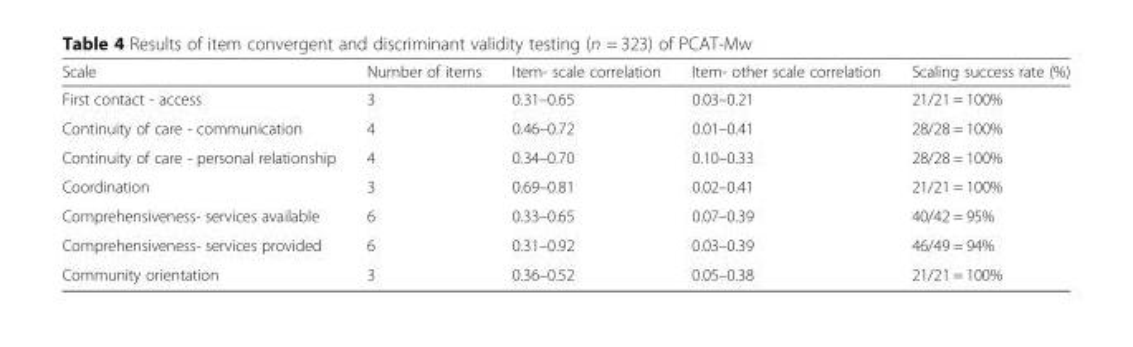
<table><thead><tr><td>Scale</td><td>Number of items</td><td>Item- scale correlation</td><td>Item- other scale correlation</td><td>Scaling success rate (%)</td></tr></thead><tbody><tr><td>First contact - access</td><td>3</td><td>0.31–0.65</td><td>0.03–0.21</td><td>21/21 = 100%</td></tr><tr><td>Continuity of care - communication</td><td>4</td><td>0.46–0.72</td><td>0.01–0.41</td><td>28/28 = 100%</td></tr><tr><td>Continuity of care - personal relationship</td><td>4</td><td>0.34–0.70</td><td>0.10–0.33</td><td>28/28 = 100%</td></tr><tr><td>Coordination</td><td>3</td><td>0.69–0.81</td><td>0.02–0.41</td><td>21/21 = 100%</td></tr><tr><td>Comprehensiveness- services available</td><td>6</td><td>0.33–0.65</td><td>0.07–0.39</td><td>40/42 = 95%</td></tr><tr><td>Comprehensiveness- services provided</td><td>6</td><td>0.31–0.92</td><td>0.03–0.39</td><td>46/49 = 94%</td></tr><tr><td>Community orientation</td><td>3</td><td>0.36–0.52</td><td>0.05–0.38</td><td>21/21 = 100%</td></tr></tbody></table>